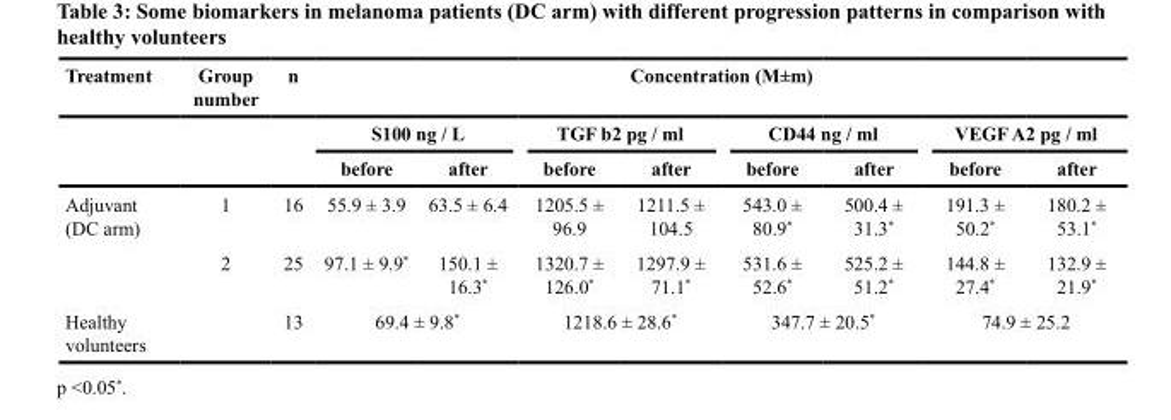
<table><thead><tr><td rowspan="3">Treatment</td><td rowspan="3">Group number</td><td rowspan="3">n</td><td colspan="8">Concentration (M±m)</td></tr><tr><td colspan="2">S100 ng / L</td><td colspan="2">TGF b2 pg / ml</td><td colspan="2">CD44 ng / ml</td><td colspan="2">VEGF A2 pg / ml</td></tr><tr><td>before</td><td>after</td><td>before</td><td>after</td><td>before</td><td>after</td><td>before</td><td>after</td></tr></thead><tbody><tr><td rowspan="2">Adjuvant (DC arm)</td><td>1</td><td>16</td><td>55.9 ± 3.9</td><td>63.5 ± 6.4</td><td>1205.5 ± 96.9</td><td>1211.5 ± 104.5</td><td>543.0 ± 80.9*</td><td>500.4 ± 31.3*</td><td>191.3 ± 50.2*</td><td>180.2 ± 53.1*</td></tr><tr><td>2</td><td>25</td><td>97.1 ± 9.9*</td><td>150.1 ± 16.3*</td><td>1320.7 ± 126.0*</td><td>1297.9 ± 71.1*</td><td>531.6 ± 52.6*</td><td>525.2 ± 51.2*</td><td>144.8 ± 27.4*</td><td>132.9 ± 21.9*</td></tr><tr><td>Healthy volunteers</td><td></td><td>13</td><td colspan="2">69.4 ± 9.8*</td><td colspan="2">1218.6 ± 28.6*</td><td colspan="2">347.7 ± 20.5*</td><td colspan="2">74.9 ± 25.2</td></tr></tbody></table>